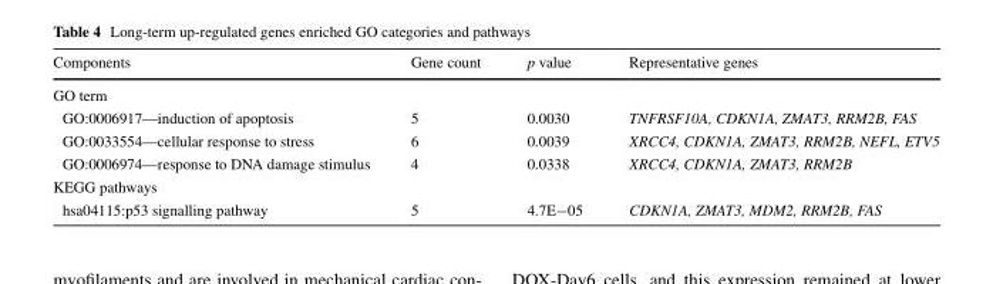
<table><thead><tr><td>Components</td><td>Gene count</td><td>p value</td><td>Representative genes</td></tr></thead><tbody><tr><td colspan="4">GO term</td></tr><tr><td>GO:0006917—induction of apoptosis</td><td>5</td><td>0.0030</td><td>TNFRSF10A, CDKN1A, ZMAT3, RRM2B, FAS</td></tr><tr><td>GO:0033554—cellular response to stress</td><td>6</td><td>0.0039</td><td>XRCC4, CDKN1A, ZMAT3, RRM2B, NEFL, ETV5</td></tr><tr><td>GO:0006974—response to DNA damage stimulus</td><td>4</td><td>0.0338</td><td>XRCC4, CDKN1A, ZMAT3, RRM2B</td></tr><tr><td colspan="4">KEGG pathways</td></tr><tr><td>hsa04115:p53 signalling pathway</td><td>5</td><td>4.7E−05</td><td>CDKN1A, ZMAT3, MDM2, RRM2B, FAS</td></tr></tbody></table>